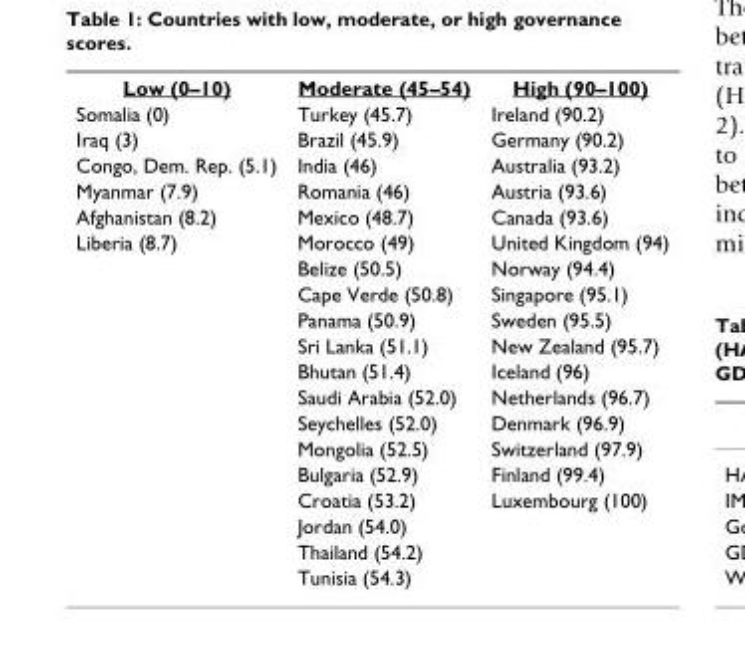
<table><tbody><tr><td>Low (0–10)</td><td>Moderate (45–54)</td><td>High (90–100)</td></tr><tr><td>Somalia (0)</td><td>Turkey (45.7)</td><td>Ireland (90.2)</td></tr><tr><td>Iraq (3)</td><td>Brazil (45.9)</td><td>Germany (90.2)</td></tr><tr><td>Congo, Dem. Rep. (5.1)</td><td>India (46)</td><td>Australia (93.2)</td></tr><tr><td>Myanmar (7.9)</td><td>Romania (46)</td><td>Austria (93.6)</td></tr><tr><td>Afghanistan (8.2)</td><td>Mexico (48.7)</td><td>Canada (93.6)</td></tr><tr><td rowspan="14">Liberia (8.7)</td><td>Morocco (49)</td><td>United Kingdom (94)</td></tr><tr><td>Belize (50.5)</td><td>Norway (94.4)</td></tr><tr><td>Cape Verde (50.8)</td><td>Singapore (95.1)</td></tr><tr><td>Panama (50.9)</td><td>Sweden (95.5)</td></tr><tr><td>Sri Lanka (51.1)</td><td>New Zealand (95.7)</td></tr><tr><td>Bhutan (51.4)</td><td>Iceland (96)</td></tr><tr><td>Saudi Arabia (52.0)</td><td>Netherlands (96.7)</td></tr><tr><td>Seychelles (52.0)</td><td>Denmark (96.9)</td></tr><tr><td>Mongolia (52.5)</td><td>Switzerland (97.9)</td></tr><tr><td>Bulgaria (52.9)</td><td>Finland (99.4)</td></tr><tr><td>Croatia (53.2)</td><td>Luxembourg (100)</td></tr><tr><td>Jordan (54.0)</td><td></td></tr><tr><td>Thailand (54.2)</td><td></td></tr><tr><td>Tunisia (54.3)</td><td></td></tr></tbody></table>